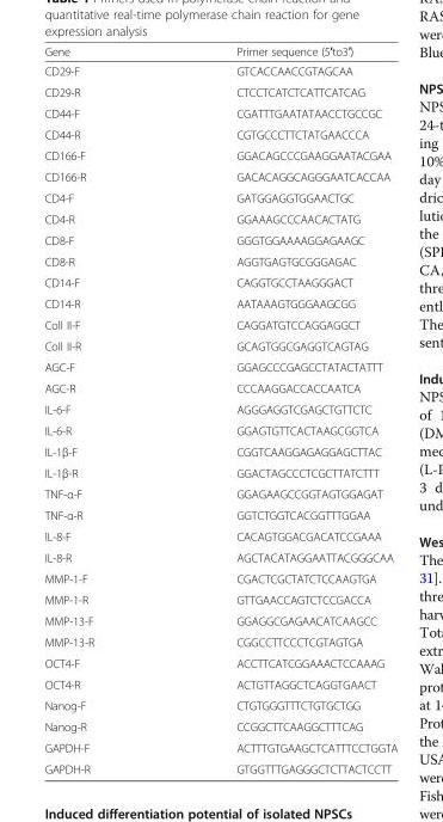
<table><thead><tr><td>Gene</td><td>Primer sequence (5′to3′)</td></tr></thead><tbody><tr><td>CD29-F</td><td>GTCACCAACCGTAGCAA</td></tr><tr><td>CD29-R</td><td>CTCCTCATCTCATTCATCAG</td></tr><tr><td>CD44-F</td><td>CGATTTGAATATAACCTGCCGC</td></tr><tr><td>CD44-R</td><td>CGTGCCCTTCTATGAACCCA</td></tr><tr><td>CD166-F</td><td>GGACAGCCCGAAGGAATACGAA</td></tr><tr><td>CD166-R</td><td>GACACAGGCAGGGAATCACCAA</td></tr><tr><td>CD4-F</td><td>GATGGAGGTGGAACTGC</td></tr><tr><td>CD4-R</td><td>GGAAAGCCCAACACTATG</td></tr><tr><td>CD8-F</td><td>GGGTGGAAAAGGAGAAGC</td></tr><tr><td>CD8-R</td><td>AGGTGAGTGCGGGAGAC</td></tr><tr><td>CD14-F</td><td>CAGGTGCCTAAGGGACT</td></tr><tr><td>CD14-R</td><td>AATAAAGTGGGAAGCGG</td></tr><tr><td>Coll II-F</td><td>CAGGATGTCCAGGAGGCT</td></tr><tr><td>Coll II-R</td><td>GCAGTGGCGAGGTCAGTAG</td></tr><tr><td>AGC-F</td><td>GGAGCCCGAGCCTATACTATTT</td></tr><tr><td>AGC-R</td><td>CCCAAGGACCACCAATCA</td></tr><tr><td>IL-6-F</td><td>AGGGAGGTCGAGCTGTTCTC</td></tr><tr><td>IL-6-R</td><td>GGAGTGTTCACTAAGCGGTCA</td></tr><tr><td>IL-1β-F</td><td>CGGTCAAGGAGAGGAGCTTAC</td></tr><tr><td>IL-1β-R</td><td>GGACTAGCCCTCGCTTATCTTT</td></tr><tr><td>TNF-α-F</td><td>GGAGAAGCCGGTAGTGGAGAT</td></tr><tr><td>TNF-α-R</td><td>GGTCTGGTCACGGTTTGGAA</td></tr><tr><td>IL-8-F</td><td>CACAGTGGACGACATCCGAAA</td></tr><tr><td>IL-8-R</td><td>AGCTACATAGGAATTACGGGCAA</td></tr><tr><td>MMP-1-F</td><td>CGACTCGCTATCTCCAAGTGA</td></tr><tr><td>MMP-1-R</td><td>GTTGAACCAGTCTCCGACCA</td></tr><tr><td>MMP-13-F</td><td>GGAGGCGAGAACATCAAGCC</td></tr><tr><td>MMP-13-R</td><td>CGGCCTTCCCTCGTAGTGA</td></tr><tr><td>OCT4-F</td><td>ACCTTCATCGGAAACTCCAAAG</td></tr><tr><td>OCT4-R</td><td>ACTGTTAGGCTCAGGTGAACT</td></tr><tr><td>Nanog-F</td><td>CTGTGGGTTTCTGTGCTGG</td></tr><tr><td>Nanog-R</td><td>CCGGCTTCAAGGCTTTCAG</td></tr><tr><td>GAPDH-F</td><td>ACTTTGTGAAGCTCATTTCCTGGTA</td></tr><tr><td>GAPDH-R</td><td>GTGGTTTGAGGGCTCTTACTCCTT</td></tr></tbody></table>